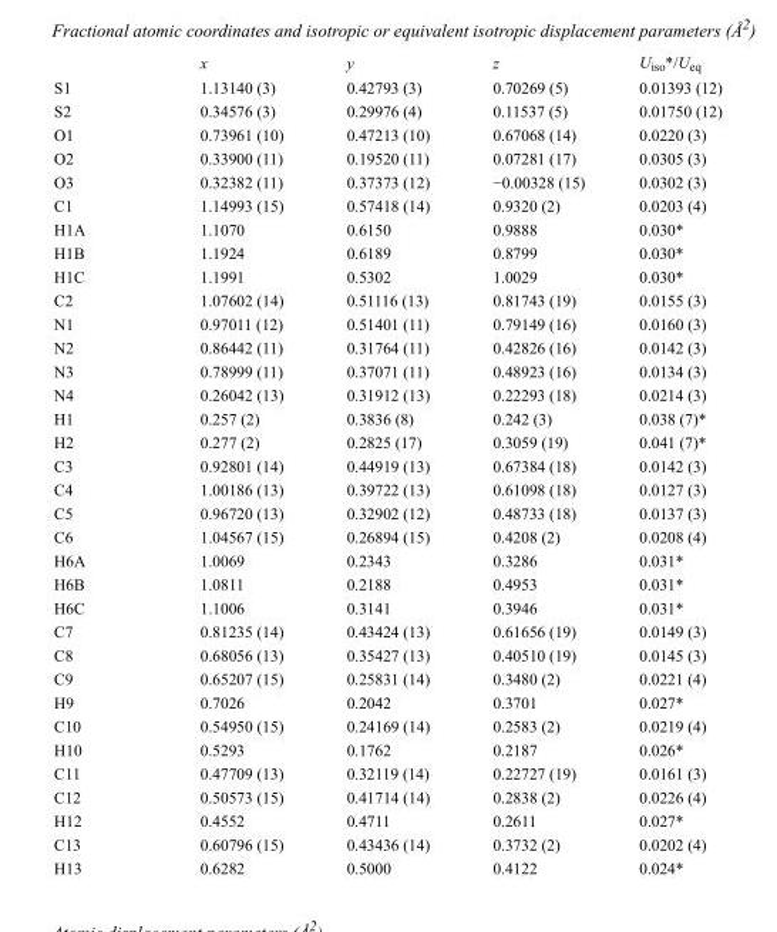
<table><thead><tr><td></td><td>x</td><td>y</td><td>z</td><td>U<sub>iso</sub>*/U<sub>eq</sub></td></tr></thead><tbody><tr><td>S1</td><td>1.13140 (3)</td><td>0.42793 (3)</td><td>0.70269 (5)</td><td>0.01393 (12)</td></tr><tr><td>S2</td><td>0.34576 (3)</td><td>0.29976 (4)</td><td>0.11537 (5)</td><td>0.01750 (12)</td></tr><tr><td>O1</td><td>0.73961 (10)</td><td>0.47213 (10)</td><td>0.67068 (14)</td><td>0.0220 (3)</td></tr><tr><td>O2</td><td>0.33900 (11)</td><td>0.19520 (11)</td><td>0.07281 (17)</td><td>0.0305 (3)</td></tr><tr><td>O3</td><td>0.32382 (11)</td><td>0.37373 (12)</td><td>−0.00328 (15)</td><td>0.0302 (3)</td></tr><tr><td>C1</td><td>1.14993 (15)</td><td>0.57418 (14)</td><td>0.9320 (2)</td><td>0.0203 (4)</td></tr><tr><td>H1A</td><td>1.1070</td><td>0.6150</td><td>0.9888</td><td>0.030*</td></tr><tr><td>H1B</td><td>1.1924</td><td>0.6189</td><td>0.8799</td><td>0.030*</td></tr><tr><td>H1C</td><td>1.1991</td><td>0.5302</td><td>1.0029</td><td>0.030*</td></tr><tr><td>C2</td><td>1.07602 (14)</td><td>0.51116 (13)</td><td>0.81743 (19)</td><td>0.0155 (3)</td></tr><tr><td>N1</td><td>0.97011 (12)</td><td>0.51401 (11)</td><td>0.79149 (16)</td><td>0.0160 (3)</td></tr><tr><td>N2</td><td>0.86442 (11)</td><td>0.31764 (11)</td><td>0.42826 (16)</td><td>0.0142 (3)</td></tr><tr><td>N3</td><td>0.78999 (11)</td><td>0.37071 (11)</td><td>0.48923 (16)</td><td>0.0134 (3)</td></tr><tr><td>N4</td><td>0.26042 (13)</td><td>0.31912 (13)</td><td>0.22293 (18)</td><td>0.0214 (3)</td></tr><tr><td>H1</td><td>0.257 (2)</td><td>0.3836 (8)</td><td>0.242 (3)</td><td>0.038 (7)*</td></tr><tr><td>H2</td><td>0.277 (2)</td><td>0.2825 (17)</td><td>0.3059 (19)</td><td>0.041 (7)*</td></tr><tr><td>C3</td><td>0.92801 (14)</td><td>0.44919 (13)</td><td>0.67384 (18)</td><td>0.0142 (3)</td></tr><tr><td>C4</td><td>1.00186 (13)</td><td>0.39722 (13)</td><td>0.61098 (18)</td><td>0.0127 (3)</td></tr><tr><td>C5</td><td>0.96720 (13)</td><td>0.32902 (12)</td><td>0.48733 (18)</td><td>0.0137 (3)</td></tr><tr><td>C6</td><td>1.04567 (15)</td><td>0.26894 (15)</td><td>0.4208 (2)</td><td>0.0208 (4)</td></tr><tr><td>H6A</td><td>1.0069</td><td>0.2343</td><td>0.3286</td><td>0.031*</td></tr><tr><td>H6B</td><td>1.0811</td><td>0.2188</td><td>0.4953</td><td>0.031*</td></tr><tr><td>H6C</td><td>1.1006</td><td>0.3141</td><td>0.3946</td><td>0.031*</td></tr><tr><td>C7</td><td>0.81235 (14)</td><td>0.43424 (13)</td><td>0.61656 (19)</td><td>0.0149 (3)</td></tr><tr><td>C8</td><td>0.68056 (13)</td><td>0.35427 (13)</td><td>0.40510 (19)</td><td>0.0145 (3)</td></tr><tr><td>C9</td><td>0.65207 (15)</td><td>0.25831 (14)</td><td>0.3480 (2)</td><td>0.0221 (4)</td></tr><tr><td>H9</td><td>0.7026</td><td>0.2042</td><td>0.3701</td><td>0.027*</td></tr><tr><td>C10</td><td>0.54950 (15)</td><td>0.24169 (14)</td><td>0.2583 (2)</td><td>0.0219 (4)</td></tr><tr><td>H10</td><td>0.5293</td><td>0.1762</td><td>0.2187</td><td>0.026*</td></tr><tr><td>C11</td><td>0.47709 (13)</td><td>0.32119 (14)</td><td>0.22727 (19)</td><td>0.0161 (3)</td></tr><tr><td>C12</td><td>0.50573 (15)</td><td>0.41714 (14)</td><td>0.2838 (2)</td><td>0.0226 (4)</td></tr><tr><td>H12</td><td>0.4552</td><td>0.4711</td><td>0.2611</td><td>0.027*</td></tr><tr><td>C13</td><td>0.60796 (15)</td><td>0.43436 (14)</td><td>0.3732 (2)</td><td>0.0202 (4)</td></tr><tr><td>H13</td><td>0.6282</td><td>0.5000</td><td>0.4122</td><td>0.024*</td></tr></tbody></table>